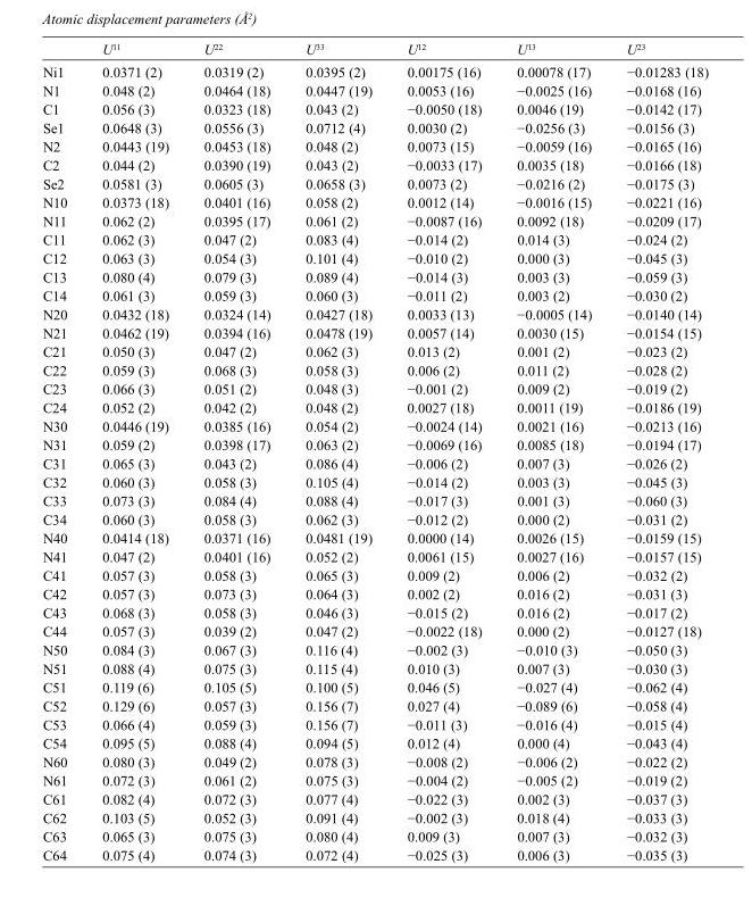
<table><thead><tr><td></td><td>U<sup>11</sup></td><td>U<sup>22</sup></td><td>U<sup>33</sup></td><td>U<sup>12</sup></td><td>U<sup>13</sup></td><td>U<sup>23</sup></td></tr></thead><tbody><tr><td>Ni1</td><td>0.0371 (2)</td><td>0.0319 (2)</td><td>0.0395 (2)</td><td>0.00175 (16)</td><td>0.00078 (17)</td><td>−0.01283 (18)</td></tr><tr><td>N1</td><td>0.048 (2)</td><td>0.0464 (18)</td><td>0.0447 (19)</td><td>0.0053 (16)</td><td>−0.0025 (16)</td><td>−0.0168 (16)</td></tr><tr><td>C1</td><td>0.056 (3)</td><td>0.0323 (18)</td><td>0.043 (2)</td><td>−0.0050 (18)</td><td>0.0046 (19)</td><td>−0.0142 (17)</td></tr><tr><td>Se1</td><td>0.0648 (3)</td><td>0.0556 (3)</td><td>0.0712 (4)</td><td>0.0030 (2)</td><td>−0.0256 (3)</td><td>−0.0156 (3)</td></tr><tr><td>N2</td><td>0.0443 (19)</td><td>0.0453 (18)</td><td>0.048 (2)</td><td>0.0073 (15)</td><td>−0.0059 (16)</td><td>−0.0165 (16)</td></tr><tr><td>C2</td><td>0.044 (2)</td><td>0.0390 (19)</td><td>0.043 (2)</td><td>−0.0033 (17)</td><td>0.0035 (18)</td><td>−0.0166 (18)</td></tr><tr><td>Se2</td><td>0.0581 (3)</td><td>0.0605 (3)</td><td>0.0658 (3)</td><td>0.0073 (2)</td><td>−0.0216 (2)</td><td>−0.0175 (3)</td></tr><tr><td>N10</td><td>0.0373 (18)</td><td>0.0401 (16)</td><td>0.058 (2)</td><td>0.0012 (14)</td><td>−0.0016 (15)</td><td>−0.0221 (16)</td></tr><tr><td>N11</td><td>0.062 (2)</td><td>0.0395 (17)</td><td>0.061 (2)</td><td>−0.0087 (16)</td><td>0.0092 (18)</td><td>−0.0209 (17)</td></tr><tr><td>C11</td><td>0.062 (3)</td><td>0.047 (2)</td><td>0.083 (4)</td><td>−0.014 (2)</td><td>0.014 (3)</td><td>−0.024 (2)</td></tr><tr><td>C12</td><td>0.063 (3)</td><td>0.054 (3)</td><td>0.101 (4)</td><td>−0.010 (2)</td><td>0.000 (3)</td><td>−0.045 (3)</td></tr><tr><td>C13</td><td>0.080 (4)</td><td>0.079 (3)</td><td>0.089 (4)</td><td>−0.014 (3)</td><td>0.003 (3)</td><td>−0.059 (3)</td></tr><tr><td>C14</td><td>0.061 (3)</td><td>0.059 (3)</td><td>0.060 (3)</td><td>−0.011 (2)</td><td>0.003 (2)</td><td>−0.030 (2)</td></tr><tr><td>N20</td><td>0.0432 (18)</td><td>0.0324 (14)</td><td>0.0427 (18)</td><td>0.0033 (13)</td><td>−0.0005 (14)</td><td>−0.0140 (14)</td></tr><tr><td>N21</td><td>0.0462 (19)</td><td>0.0394 (16)</td><td>0.0478 (19)</td><td>0.0057 (14)</td><td>0.0030 (15)</td><td>−0.0154 (15)</td></tr><tr><td>C21</td><td>0.050 (3)</td><td>0.047 (2)</td><td>0.062 (3)</td><td>0.013 (2)</td><td>0.001 (2)</td><td>−0.023 (2)</td></tr><tr><td>C22</td><td>0.059 (3)</td><td>0.068 (3)</td><td>0.058 (3)</td><td>0.006 (2)</td><td>0.011 (2)</td><td>−0.028 (2)</td></tr><tr><td>C23</td><td>0.066 (3)</td><td>0.051 (2)</td><td>0.048 (3)</td><td>−0.001 (2)</td><td>0.009 (2)</td><td>−0.019 (2)</td></tr><tr><td>C24</td><td>0.052 (2)</td><td>0.042 (2)</td><td>0.048 (2)</td><td>0.0027 (18)</td><td>0.0011 (19)</td><td>−0.0186 (19)</td></tr><tr><td>N30</td><td>0.0446 (19)</td><td>0.0385 (16)</td><td>0.054 (2)</td><td>−0.0024 (14)</td><td>0.0021 (16)</td><td>−0.0213 (16)</td></tr><tr><td>N31</td><td>0.059 (2)</td><td>0.0398 (17)</td><td>0.063 (2)</td><td>−0.0069 (16)</td><td>0.0085 (18)</td><td>−0.0194 (17)</td></tr><tr><td>C31</td><td>0.065 (3)</td><td>0.043 (2)</td><td>0.086 (4)</td><td>−0.006 (2)</td><td>0.007 (3)</td><td>−0.026 (2)</td></tr><tr><td>C32</td><td>0.060 (3)</td><td>0.058 (3)</td><td>0.105 (4)</td><td>−0.014 (2)</td><td>0.003 (3)</td><td>−0.045 (3)</td></tr><tr><td>C33</td><td>0.073 (3)</td><td>0.084 (4)</td><td>0.088 (4)</td><td>−0.017 (3)</td><td>0.001 (3)</td><td>−0.060 (3)</td></tr><tr><td>C34</td><td>0.060 (3)</td><td>0.058 (3)</td><td>0.062 (3)</td><td>−0.012 (2)</td><td>0.000 (2)</td><td>−0.031 (2)</td></tr><tr><td>N40</td><td>0.0414 (18)</td><td>0.0371 (16)</td><td>0.0481 (19)</td><td>0.0000 (14)</td><td>0.0026 (15)</td><td>−0.0159 (15)</td></tr><tr><td>N41</td><td>0.047 (2)</td><td>0.0401 (16)</td><td>0.052 (2)</td><td>0.0061 (15)</td><td>0.0027 (16)</td><td>−0.0157 (15)</td></tr><tr><td>C41</td><td>0.057 (3)</td><td>0.058 (3)</td><td>0.065 (3)</td><td>0.009 (2)</td><td>0.006 (2)</td><td>−0.032 (2)</td></tr><tr><td>C42</td><td>0.057 (3)</td><td>0.073 (3)</td><td>0.064 (3)</td><td>0.002 (2)</td><td>0.016 (2)</td><td>−0.031 (3)</td></tr><tr><td>C43</td><td>0.068 (3)</td><td>0.058 (3)</td><td>0.046 (3)</td><td>−0.015 (2)</td><td>0.016 (2)</td><td>−0.017 (2)</td></tr><tr><td>C44</td><td>0.057 (3)</td><td>0.039 (2)</td><td>0.047 (2)</td><td>−0.0022 (18)</td><td>0.000 (2)</td><td>−0.0127 (18)</td></tr><tr><td>N50</td><td>0.084 (3)</td><td>0.067 (3)</td><td>0.116 (4)</td><td>−0.002 (3)</td><td>−0.010 (3)</td><td>−0.050 (3)</td></tr><tr><td>N51</td><td>0.088 (4)</td><td>0.075 (3)</td><td>0.115 (4)</td><td>0.010 (3)</td><td>0.007 (3)</td><td>−0.030 (3)</td></tr><tr><td>C51</td><td>0.119 (6)</td><td>0.105 (5)</td><td>0.100 (5)</td><td>0.046 (5)</td><td>−0.027 (4)</td><td>−0.062 (4)</td></tr><tr><td>C52</td><td>0.129 (6)</td><td>0.057 (3)</td><td>0.156 (7)</td><td>0.027 (4)</td><td>−0.089 (6)</td><td>−0.058 (4)</td></tr><tr><td>C53</td><td>0.066 (4)</td><td>0.059 (3)</td><td>0.156 (7)</td><td>−0.011 (3)</td><td>−0.016 (4)</td><td>−0.015 (4)</td></tr><tr><td>C54</td><td>0.095 (5)</td><td>0.088 (4)</td><td>0.094 (5)</td><td>0.012 (4)</td><td>0.000 (4)</td><td>−0.043 (4)</td></tr><tr><td>N60</td><td>0.080 (3)</td><td>0.049 (2)</td><td>0.078 (3)</td><td>−0.008 (2)</td><td>−0.006 (2)</td><td>−0.022 (2)</td></tr><tr><td>N61</td><td>0.072 (3)</td><td>0.061 (2)</td><td>0.075 (3)</td><td>−0.004 (2)</td><td>−0.005 (2)</td><td>−0.019 (2)</td></tr><tr><td>C61</td><td>0.082 (4)</td><td>0.072 (3)</td><td>0.077 (4)</td><td>−0.022 (3)</td><td>0.002 (3)</td><td>−0.037 (3)</td></tr><tr><td>C62</td><td>0.103 (5)</td><td>0.052 (3)</td><td>0.091 (4)</td><td>−0.002 (3)</td><td>0.018 (4)</td><td>−0.033 (3)</td></tr><tr><td>C63</td><td>0.065 (3)</td><td>0.075 (3)</td><td>0.080 (4)</td><td>0.009 (3)</td><td>0.007 (3)</td><td>−0.032 (3)</td></tr><tr><td>C64</td><td>0.075 (4)</td><td>0.074 (3)</td><td>0.072 (4)</td><td>−0.025 (3)</td><td>0.006 (3)</td><td>−0.035 (3)</td></tr></tbody></table>